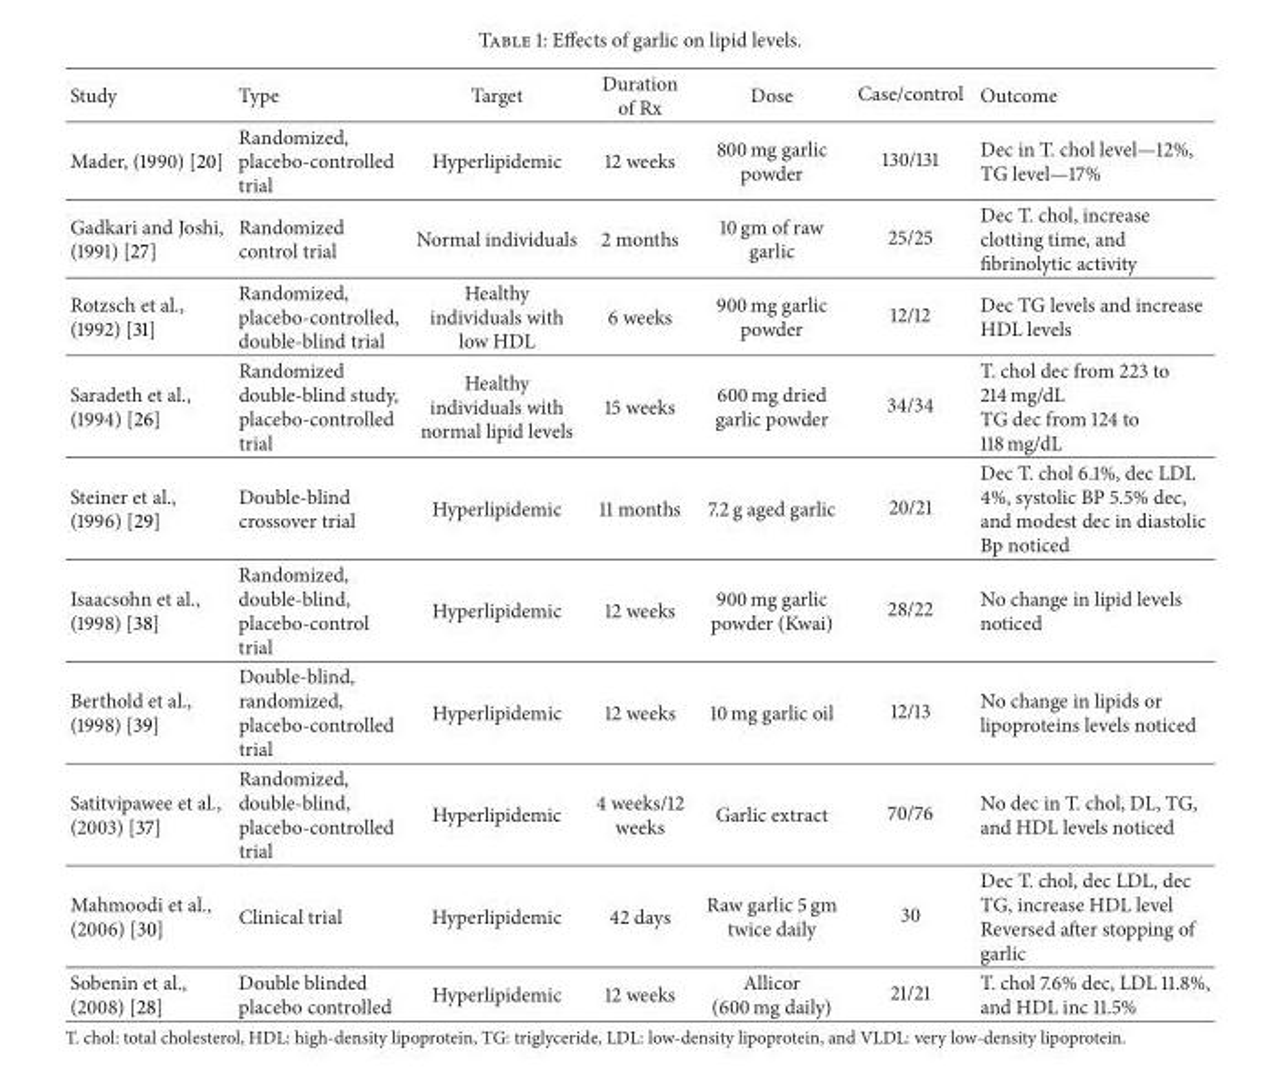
<table><thead><tr><td>Study</td><td>Type</td><td>Target</td><td>Duration of Rx</td><td>Dose</td><td>Case/control</td><td>Outcome</td></tr></thead><tbody><tr><td>Mader, (1990) [20]</td><td>Randomized, placebo-controlled trial</td><td>Hyperlipidemic</td><td>12 weeks</td><td>800 mg garlic powder</td><td>130/131</td><td>Dec in T. chol level—12%, TG level—17%</td></tr><tr><td>Gadkari and Joshi, (1991) [27]</td><td>Randomized control trial</td><td>Normal individuals</td><td>2 months</td><td>10 gm of raw garlic</td><td>25/25</td><td>Dec T. chol, increase clotting time, and fibrinolytic activity</td></tr><tr><td>Rotzsch et al., (1992) [31]</td><td>Randomized, placebo-controlled, double-blind trial</td><td>Healthy individuals with low HDL</td><td>6 weeks</td><td>900 mg garlic powder</td><td>12/12</td><td>Dec TG levels and increase HDL levels</td></tr><tr><td>Saradeth et al., (1994) [26]</td><td>Randomized double-blind study, placebo-controlled trial</td><td>Healthy individuals with normal lipid levels</td><td>15 weeks</td><td>600 mg dried garlic powder</td><td>34/34</td><td>T. chol dec from 223 to 214 mg/dL TG dec from 124 to 118 mg/dL</td></tr><tr><td>Steiner et al., (1996) [29]</td><td>Double-blind crossover trial</td><td>Hyperlipidemic</td><td>11 months</td><td>7.2 g aged garlic</td><td>20/21</td><td>Dec T. chol 6.1%, dec LDL 4%, systolic BP 5.5% dec, and modest dec in diastolic Bp noticed</td></tr><tr><td>Isaacsohn et al., (1998) [38]</td><td>Randomized, double-blind, placebo-control trial</td><td>Hyperlipidemic</td><td>12 weeks</td><td>900 mg garlic powder (Kwai)</td><td>28/22</td><td>No change in lipid levels noticed</td></tr><tr><td>Berthold et al., (1998) [39]</td><td>Double-blind, randomized, placebo-controlled trial</td><td>Hyperlipidemic</td><td>12 weeks</td><td>10 mg garlic oil</td><td>12/13</td><td>No change in lipids or lipoproteins levels noticed</td></tr><tr><td>Satitvipawee et al., (2003) [37]</td><td>Randomized, double-blind, placebo-controlled trial</td><td>Hyperlipidemic</td><td>4 weeks/12 weeks</td><td>Garlic extract</td><td>70/76</td><td>No dec in T. chol, DL, TG, and HDL levels noticed</td></tr><tr><td>Mahmoodi et al., (2006) [30]</td><td>Clinical trial</td><td>Hyperlipidemic</td><td>42 days</td><td>Raw garlic 5 gm twice daily</td><td>30</td><td>Dec T. chol, dec LDL, dec TG, increase HDL level Reversed after stopping of garlic</td></tr><tr><td>Sobenin et al., (2008) [28]</td><td>Double blinded placebo controlled</td><td>Hyperlipidemic</td><td>12 weeks</td><td>Allicor (600 mg daily)</td><td>21/21</td><td>T. chol 7.6% dec, LDL 11.8%, and HDL inc 11.5%</td></tr></tbody></table>